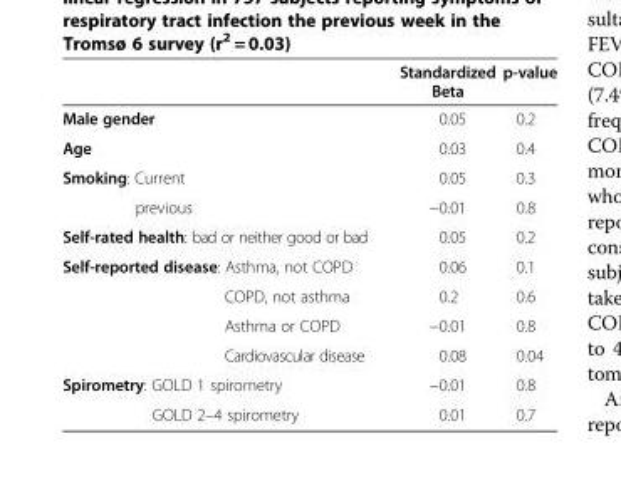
<table><thead><tr><td></td><td>Standardized Beta</td><td>p-value</td></tr></thead><tbody><tr><td>Male gender</td><td>0.05</td><td>0.2</td></tr><tr><td>Age</td><td>0.03</td><td>0.4</td></tr><tr><td>Smoking: Current</td><td>0.05</td><td>0.3</td></tr><tr><td>previous</td><td>−0.01</td><td>0.8</td></tr><tr><td>Self-rated health: bad or neither good or bad</td><td>0.05</td><td>0.2</td></tr><tr><td>Self-reported disease: Asthma, not COPD</td><td>0.06</td><td>0.1</td></tr><tr><td>COPD, not asthma</td><td>0.2</td><td>0.6</td></tr><tr><td>Asthma or COPD</td><td>−0.01</td><td>0.8</td></tr><tr><td>Cardiovascular disease</td><td>0.08</td><td>0.04</td></tr><tr><td>Spirometry: GOLD 1 spirometry</td><td>−0.01</td><td>0.8</td></tr><tr><td>GOLD 2–4 spirometry</td><td>0.01</td><td>0.7</td></tr></tbody></table>